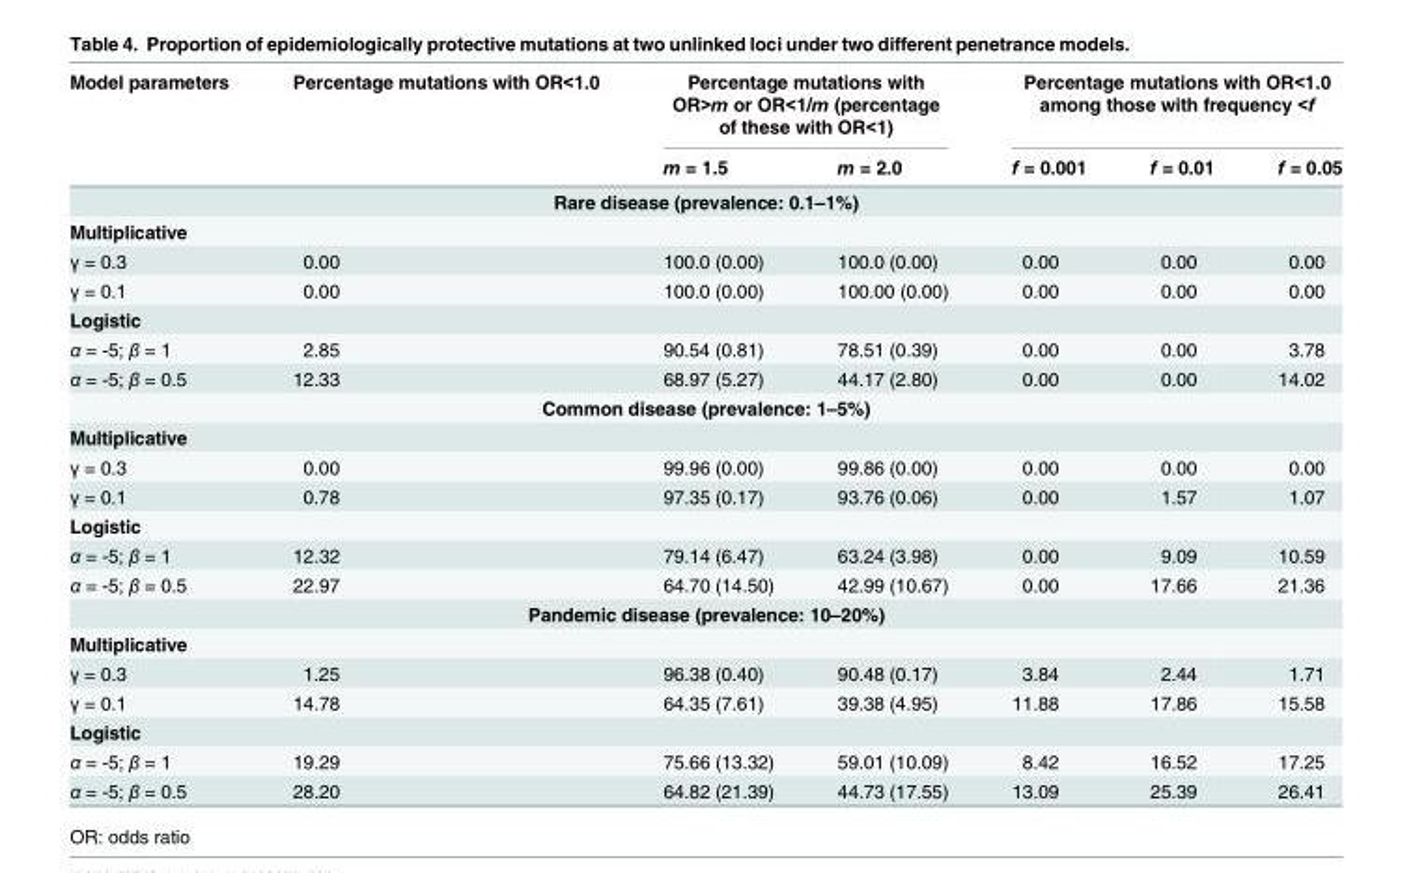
<table><thead><tr><td rowspan="2">Model parameters</td><td rowspan="2">Percentage mutations with OR&lt;1.0</td><td colspan="2">Percentage mutations with OR&gt;m or OR&lt;1/m (percentage of these with OR&lt;1)</td><td colspan="3">Percentage mutations with OR&lt;1.0 among those with frequency &lt;f</td></tr><tr><td>m = 1.5</td><td>m = 2.0</td><td>f = 0.001</td><td>f = 0.01</td><td>f = 0.05</td></tr></thead><tbody><tr><td colspan="7">Rare disease (prevalence: 0.1–1%)</td></tr><tr><td colspan="7">Multiplicative</td></tr><tr><td>γ = 0.3</td><td>0.00</td><td>100.0 (0.00)</td><td>100.0 (0.00)</td><td>0.00</td><td>0.00</td><td>0.00</td></tr><tr><td>γ = 0.1</td><td>0.00</td><td>100.0 (0.00)</td><td>100.00 (0.00)</td><td>0.00</td><td>0.00</td><td>0.00</td></tr><tr><td colspan="7">Logistic</td></tr><tr><td>α = -5; β = 1</td><td>2.85</td><td>90.54 (0.81)</td><td>78.51 (0.39)</td><td>0.00</td><td>0.00</td><td>3.78</td></tr><tr><td>α = -5; β = 0.5</td><td>12.33</td><td>68.97 (5.27)</td><td>44.17 (2.80)</td><td>0.00</td><td>0.00</td><td>14.02</td></tr><tr><td colspan="7">Common disease (prevalence: 1–5%)</td></tr><tr><td colspan="7">Multiplicative</td></tr><tr><td>γ = 0.3</td><td>0.00</td><td>99.96 (0.00)</td><td>99.86 (0.00)</td><td>0.00</td><td>0.00</td><td>0.00</td></tr><tr><td>γ = 0.1</td><td>0.78</td><td>97.35 (0.17)</td><td>93.76 (0.06)</td><td>0.00</td><td>1.57</td><td>1.07</td></tr><tr><td colspan="7">Logistic</td></tr><tr><td>α = -5; β = 1</td><td>12.32</td><td>79.14 (6.47)</td><td>63.24 (3.98)</td><td>0.00</td><td>9.09</td><td>10.59</td></tr><tr><td>α = -5; β = 0.5</td><td>22.97</td><td>64.70 (14.50)</td><td>42.99 (10.67)</td><td>0.00</td><td>17.66</td><td>21.36</td></tr><tr><td colspan="7">Pandemic disease (prevalence: 10–20%)</td></tr><tr><td colspan="7">Multiplicative</td></tr><tr><td>γ = 0.3</td><td>1.25</td><td>96.38 (0.40)</td><td>90.48 (0.17)</td><td>3.84</td><td>2.44</td><td>1.71</td></tr><tr><td>γ = 0.1</td><td>14.78</td><td>64.35 (7.61)</td><td>39.38 (4.95)</td><td>11.88</td><td>17.86</td><td>15.58</td></tr><tr><td colspan="7">Logistic</td></tr><tr><td>α = -5; β = 1</td><td>19.29</td><td>75.66 (13.32)</td><td>59.01 (10.09)</td><td>8.42</td><td>16.52</td><td>17.25</td></tr><tr><td>α = -5; β = 0.5</td><td>28.20</td><td>64.82 (21.39)</td><td>44.73 (17.55)</td><td>13.09</td><td>25.39</td><td>26.41</td></tr></tbody></table>